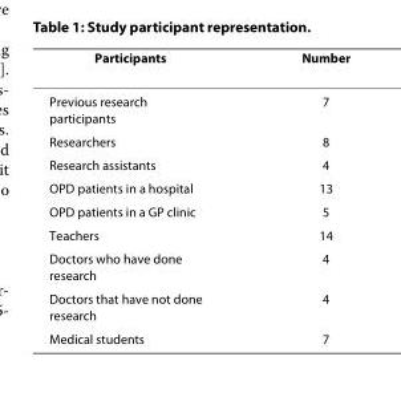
<table><thead><tr><td>Participants</td><td>Number</td></tr></thead><tbody><tr><td>Previous research participants</td><td>7</td></tr><tr><td>Researchers</td><td>8</td></tr><tr><td>Research assistants</td><td>4</td></tr><tr><td>OPD patients in a hospital</td><td>13</td></tr><tr><td>OPD patients in a GP clinic</td><td>5</td></tr><tr><td>Teachers</td><td>14</td></tr><tr><td>Doctors who have done research</td><td>4</td></tr><tr><td>Doctors that have not done research</td><td>4</td></tr><tr><td>Medical students</td><td>7</td></tr></tbody></table>